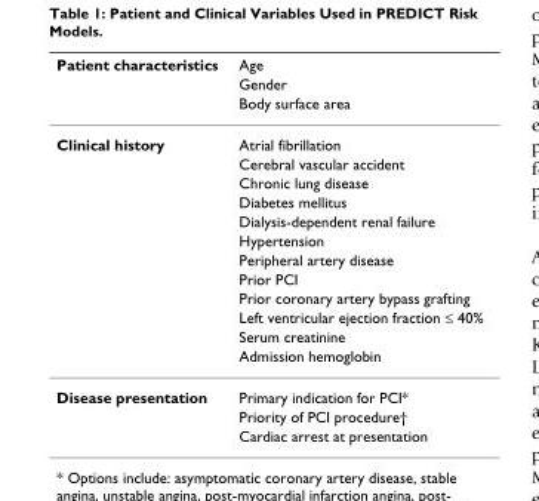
<table><thead><tr><td rowspan="3">Patient characteristics</td><td rowspan="3">Age Gender Body surface area</td></tr><tr></tr><tr></tr></thead><tbody><tr><td rowspan="12">Clinical history</td><td>Atrial fibrillation</td></tr><tr><td>Cerebral vascular accident</td></tr><tr><td>Chronic lung disease</td></tr><tr><td>Diabetes mellitus</td></tr><tr><td>Dialysis-dependent renal failure</td></tr><tr><td>Hypertension</td></tr><tr><td>Peripheral artery disease</td></tr><tr><td>Prior PCI</td></tr><tr><td>Prior coronary artery bypass grafting</td></tr><tr><td>Left ventricular ejection fraction ≤ 40%</td></tr><tr><td>Serum creatinine</td></tr><tr><td>Admission hemoglobin</td></tr><tr><td rowspan="3">Disease presentation</td><td>Primary indication for PCI*</td></tr><tr><td>Priority of PCI procedure†</td></tr><tr><td>Cardiac arrest at presentation</td></tr></tbody></table>